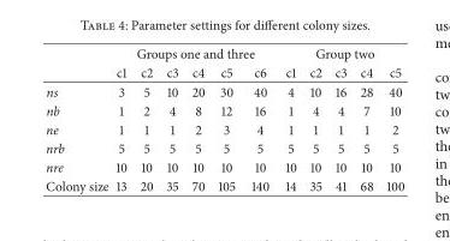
<table><thead><tr><td rowspan="2"></td><td colspan="6">Groups one and three</td><td colspan="5">Group two</td></tr><tr><td>c1</td><td>c2</td><td>c3</td><td>c4</td><td>c5</td><td>c6</td><td>c1</td><td>c2</td><td>c3</td><td>c4</td><td>c5</td></tr></thead><tbody><tr><td>ns</td><td>3</td><td>5</td><td>10</td><td>20</td><td>30</td><td>40</td><td>4</td><td>10</td><td>16</td><td>28</td><td>40</td></tr><tr><td>nb</td><td>1</td><td>2</td><td>4</td><td>8</td><td>12</td><td>16</td><td>1</td><td>4</td><td>4</td><td>7</td><td>10</td></tr><tr><td>ne</td><td>1</td><td>1</td><td>1</td><td>2</td><td>3</td><td>4</td><td>1</td><td>1</td><td>1</td><td>1</td><td>2</td></tr><tr><td>nrb</td><td>5</td><td>5</td><td>5</td><td>5</td><td>5</td><td>5</td><td>5</td><td>5</td><td>5</td><td>5</td><td>5</td></tr><tr><td>nre</td><td>10</td><td>10</td><td>10</td><td>10</td><td>10</td><td>10</td><td>10</td><td>10</td><td>10</td><td>10</td><td>10</td></tr><tr><td>Colony size</td><td>13</td><td>20</td><td>35</td><td>70</td><td>105</td><td>140</td><td>14</td><td>35</td><td>41</td><td>68</td><td>100</td></tr></tbody></table>